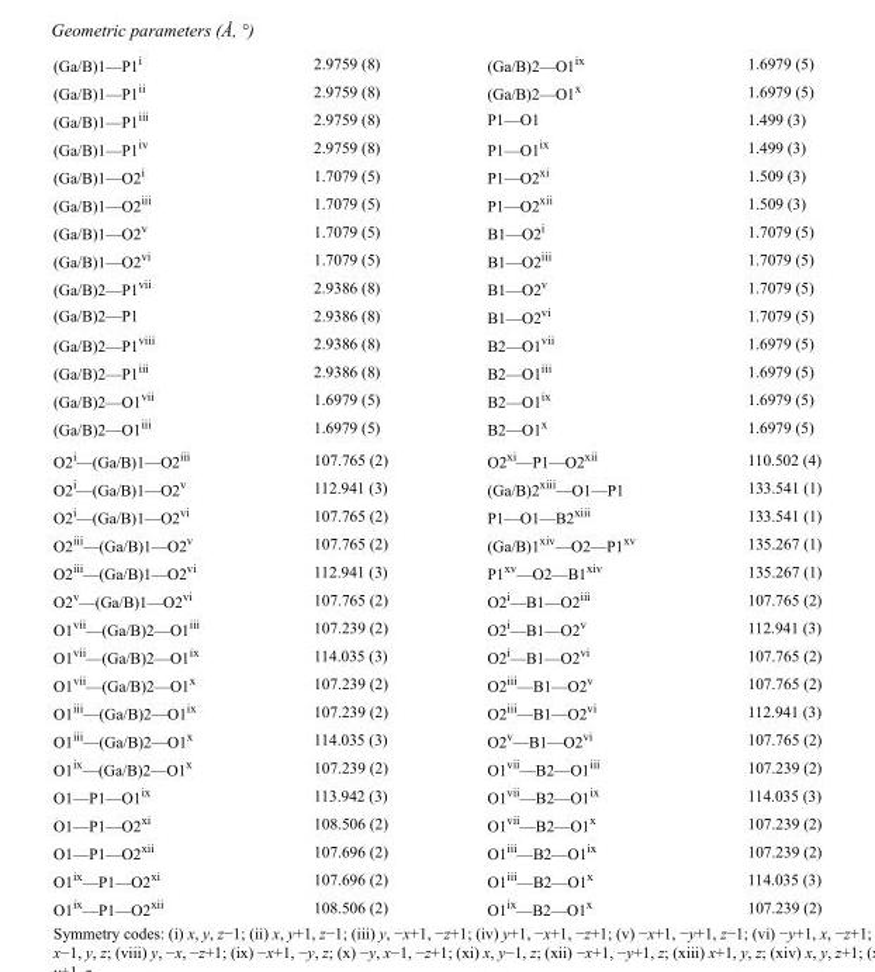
<table><tbody><tr><td>(Ga/B)1—P1<sup>i</sup></td><td>2.9759 (8)</td><td>(Ga/B)2—O1<sup>ix</sup></td><td>1.6979 (5)</td></tr><tr><td>(Ga/B)1—P1<sup>ii</sup></td><td>2.9759 (8)</td><td>(Ga/B)2—O1<sup>x</sup></td><td>1.6979 (5)</td></tr><tr><td>(Ga/B)1—P1<sup>iii</sup></td><td>2.9759 (8)</td><td>P1—O1</td><td>1.499 (3)</td></tr><tr><td>(Ga/B)1—P1<sup>iv</sup></td><td>2.9759 (8)</td><td>P1—O1<sup>ix</sup></td><td>1.499 (3)</td></tr><tr><td>(Ga/B)1—O2<sup>i</sup></td><td>1.7079 (5)</td><td>P1—O2<sup>xi</sup></td><td>1.509 (3)</td></tr><tr><td>(Ga/B)1—O2<sup>iii</sup></td><td>1.7079 (5)</td><td>P1—O2<sup>xii</sup></td><td>1.509 (3)</td></tr><tr><td>(Ga/B)1—O2<sup>v</sup></td><td>1.7079 (5)</td><td>B1—O2<sup>i</sup></td><td>1.7079 (5)</td></tr><tr><td>(Ga/B)1—O2<sup>vi</sup></td><td>1.7079 (5)</td><td>B1—O2<sup>iii</sup></td><td>1.7079 (5)</td></tr><tr><td>(Ga/B)2—P1<sup>vii</sup></td><td>2.9386 (8)</td><td>B1—O2<sup>v</sup></td><td>1.7079 (5)</td></tr><tr><td>(Ga/B)2—P1</td><td>2.9386 (8)</td><td>B1—O2<sup>vi</sup></td><td>1.7079 (5)</td></tr><tr><td>(Ga/B)2—P1<sup>viii</sup></td><td>2.9386 (8)</td><td>B2—O1<sup>vii</sup></td><td>1.6979 (5)</td></tr><tr><td>(Ga/B)2—P1<sup>iii</sup></td><td>2.9386 (8)</td><td>B2—O1<sup>iii</sup></td><td>1.6979 (5)</td></tr><tr><td>(Ga/B)2—O1<sup>vii</sup></td><td>1.6979 (5)</td><td>B2—O1<sup>ix</sup></td><td>1.6979 (5)</td></tr><tr><td>(Ga/B)2—O1<sup>iii</sup></td><td>1.6979 (5)</td><td>B2—O1<sup>x</sup></td><td>1.6979 (5)</td></tr><tr><td>O2<sup>i</sup>—(Ga/B)1—O2<sup>iii</sup></td><td>107.765 (2)</td><td>O2<sup>xi</sup>—P1—O2<sup>xii</sup></td><td>110.502 (4)</td></tr><tr><td>O2<sup>i</sup>—(Ga/B)1—O2<sup>v</sup></td><td>112.941 (3)</td><td>(Ga/B)2<sup>xiii</sup>—O1—P1</td><td>133.541 (1)</td></tr><tr><td>O2<sup>i</sup>—(Ga/B)1—O2<sup>vi</sup></td><td>107.765 (2)</td><td>P1—O1—B2<sup>xiii</sup></td><td>133.541 (1)</td></tr><tr><td>O2<sup>iii</sup>—(Ga/B)1—O2<sup>v</sup></td><td>107.765 (2)</td><td>(Ga/B)1<sup>xiv</sup>—O2—P1<sup>xv</sup></td><td>135.267 (1)</td></tr><tr><td>O2<sup>iii</sup>—(Ga/B)1—O2<sup>vi</sup></td><td>112.941 (3)</td><td>P1<sup>xv</sup>—O2—B1<sup>xiv</sup></td><td>135.267 (1)</td></tr><tr><td>O2<sup>v</sup>—(Ga/B)1—O2<sup>vi</sup></td><td>107.765 (2)</td><td>O2<sup>i</sup>—B1—O2<sup>iii</sup></td><td>107.765 (2)</td></tr><tr><td>O1<sup>vii</sup>—(Ga/B)2—O1<sup>iii</sup></td><td>107.239 (2)</td><td>O2<sup>i</sup>—B1—O2<sup>v</sup></td><td>112.941 (3)</td></tr><tr><td>O1<sup>vii</sup>—(Ga/B)2—O1<sup>ix</sup></td><td>114.035 (3)</td><td>O2<sup>i</sup>—B1—O2<sup>vi</sup></td><td>107.765 (2)</td></tr><tr><td>O1<sup>vii</sup>—(Ga/B)2—O1<sup>x</sup></td><td>107.239 (2)</td><td>O2<sup>iii</sup>—B1—O2<sup>v</sup></td><td>107.765 (2)</td></tr><tr><td>O1<sup>iii</sup>—(Ga/B)2—O1<sup>ix</sup></td><td>107.239 (2)</td><td>O2<sup>iii</sup>—B1—O2<sup>vi</sup></td><td>112.941 (3)</td></tr><tr><td>O1<sup>iii</sup>—(Ga/B)2—O1<sup>x</sup></td><td>114.035 (3)</td><td>O2<sup>v</sup>—B1—O2<sup>vi</sup></td><td>107.765 (2)</td></tr><tr><td>O1<sup>ix</sup>—(Ga/B)2—O1<sup>x</sup></td><td>107.239 (2)</td><td>O1<sup>vii</sup>—B2—O1<sup>iii</sup></td><td>107.239 (2)</td></tr><tr><td>O1—P1—O1<sup>ix</sup></td><td>113.942 (3)</td><td>O1<sup>vii</sup>—B2—O1<sup>ix</sup></td><td>114.035 (3)</td></tr><tr><td>O1—P1—O2<sup>xi</sup></td><td>108.506 (2)</td><td>O1<sup>vii</sup>—B2—O1<sup>x</sup></td><td>107.239 (2)</td></tr><tr><td>O1—P1—O2<sup>xii</sup></td><td>107.696 (2)</td><td>O1<sup>iii</sup>—B2—O1<sup>ix</sup></td><td>107.239 (2)</td></tr><tr><td>O1<sup>ix</sup>—P1—O2<sup>xi</sup></td><td>107.696 (2)</td><td>O1<sup>iii</sup>—B2—O1<sup>x</sup></td><td>114.035 (3)</td></tr><tr><td>O1<sup>ix</sup>—P1—O2<sup>xii</sup></td><td>108.506 (2)</td><td>O1<sup>ix</sup>—B2—O1<sup>x</sup></td><td>107.239 (2)</td></tr></tbody></table>